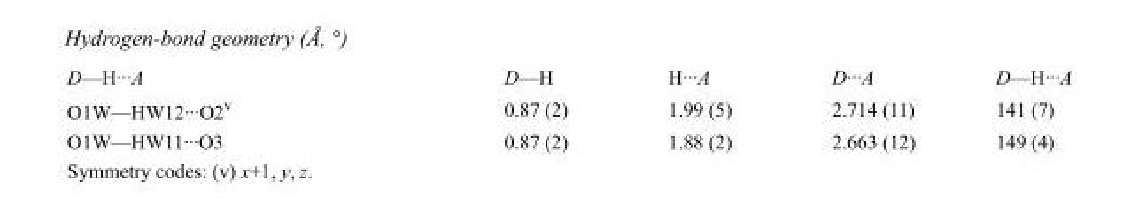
<table><tbody><tr><td>D—H···A</td><td>D—H</td><td>H···A</td><td>D···A</td><td>D—H···A</td></tr><tr><td>O1W—HW12···O2<sup>v</sup></td><td>0.87 (2)</td><td>1.99 (5)</td><td>2.714 (11)</td><td>141 (7)</td></tr><tr><td>O1W—HW11···O3</td><td>0.87 (2)</td><td>1.88 (2)</td><td>2.663 (12)</td><td>149 (4)</td></tr></tbody></table>